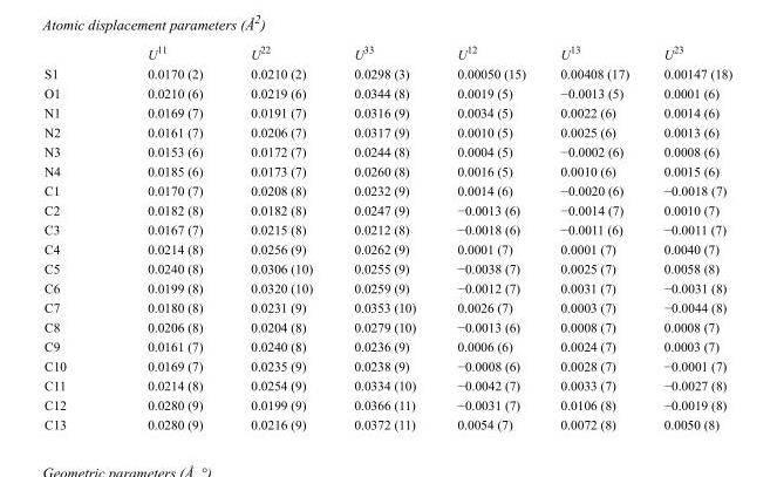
<table><thead><tr><td></td><td>U<sup>11</sup></td><td>U<sup>22</sup></td><td>U<sup>33</sup></td><td>U<sup>12</sup></td><td>U<sup>13</sup></td><td>U<sup>23</sup></td></tr></thead><tbody><tr><td>S1</td><td>0.0170 (2)</td><td>0.0210 (2)</td><td>0.0298 (3)</td><td>0.00050 (15)</td><td>0.00408 (17)</td><td>0.00147 (18)</td></tr><tr><td>O1</td><td>0.0210 (6)</td><td>0.0219 (6)</td><td>0.0344 (8)</td><td>0.0019 (5)</td><td>−0.0013 (5)</td><td>0.0001 (6)</td></tr><tr><td>N1</td><td>0.0169 (7)</td><td>0.0191 (7)</td><td>0.0316 (9)</td><td>0.0034 (5)</td><td>0.0022 (6)</td><td>0.0014 (6)</td></tr><tr><td>N2</td><td>0.0161 (7)</td><td>0.0206 (7)</td><td>0.0317 (9)</td><td>0.0010 (5)</td><td>0.0025 (6)</td><td>0.0013 (6)</td></tr><tr><td>N3</td><td>0.0153 (6)</td><td>0.0172 (7)</td><td>0.0244 (8)</td><td>0.0004 (5)</td><td>−0.0002 (6)</td><td>0.0008 (6)</td></tr><tr><td>N4</td><td>0.0185 (6)</td><td>0.0173 (7)</td><td>0.0260 (8)</td><td>0.0016 (5)</td><td>0.0010 (6)</td><td>0.0015 (6)</td></tr><tr><td>C1</td><td>0.0170 (7)</td><td>0.0208 (8)</td><td>0.0232 (9)</td><td>0.0014 (6)</td><td>−0.0020 (6)</td><td>−0.0018 (7)</td></tr><tr><td>C2</td><td>0.0182 (8)</td><td>0.0182 (8)</td><td>0.0247 (9)</td><td>−0.0013 (6)</td><td>−0.0014 (7)</td><td>0.0010 (7)</td></tr><tr><td>C3</td><td>0.0167 (7)</td><td>0.0215 (8)</td><td>0.0212 (8)</td><td>−0.0018 (6)</td><td>−0.0011 (6)</td><td>−0.0011 (7)</td></tr><tr><td>C4</td><td>0.0214 (8)</td><td>0.0256 (9)</td><td>0.0262 (9)</td><td>0.0001 (7)</td><td>0.0001 (7)</td><td>0.0040 (7)</td></tr><tr><td>C5</td><td>0.0240 (8)</td><td>0.0306 (10)</td><td>0.0255 (9)</td><td>−0.0038 (7)</td><td>0.0025 (7)</td><td>0.0058 (8)</td></tr><tr><td>C6</td><td>0.0199 (8)</td><td>0.0320 (10)</td><td>0.0259 (9)</td><td>−0.0012 (7)</td><td>0.0031 (7)</td><td>−0.0031 (8)</td></tr><tr><td>C7</td><td>0.0180 (8)</td><td>0.0231 (9)</td><td>0.0353 (10)</td><td>0.0026 (7)</td><td>0.0003 (7)</td><td>−0.0044 (8)</td></tr><tr><td>C8</td><td>0.0206 (8)</td><td>0.0204 (8)</td><td>0.0279 (10)</td><td>−0.0013 (6)</td><td>0.0008 (7)</td><td>0.0008 (7)</td></tr><tr><td>C9</td><td>0.0161 (7)</td><td>0.0240 (8)</td><td>0.0236 (9)</td><td>0.0006 (6)</td><td>0.0024 (7)</td><td>0.0003 (7)</td></tr><tr><td>C10</td><td>0.0169 (7)</td><td>0.0235 (9)</td><td>0.0238 (9)</td><td>−0.0008 (6)</td><td>0.0028 (7)</td><td>−0.0001 (7)</td></tr><tr><td>C11</td><td>0.0214 (8)</td><td>0.0254 (9)</td><td>0.0334 (10)</td><td>−0.0042 (7)</td><td>0.0033 (7)</td><td>−0.0027 (8)</td></tr><tr><td>C12</td><td>0.0280 (9)</td><td>0.0199 (9)</td><td>0.0366 (11)</td><td>−0.0031 (7)</td><td>0.0106 (8)</td><td>−0.0019 (8)</td></tr><tr><td>C13</td><td>0.0280 (9)</td><td>0.0216 (9)</td><td>0.0372 (11)</td><td>0.0054 (7)</td><td>0.0072 (8)</td><td>0.0050 (8)</td></tr></tbody></table>